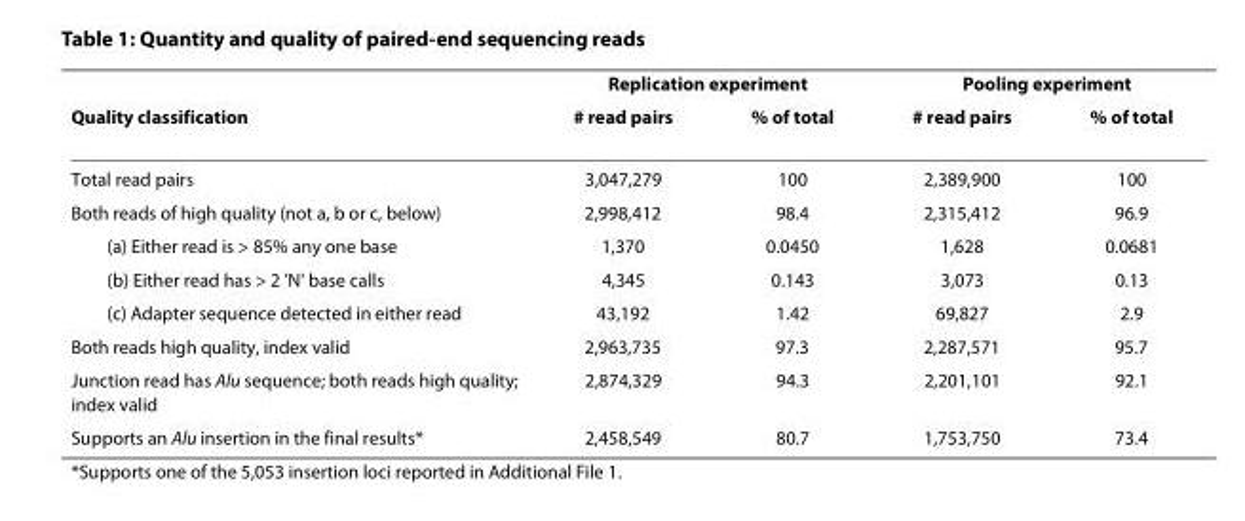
<table><thead><tr><td rowspan="2">Quality classification</td><td colspan="2">Replication experiment</td><td colspan="2">Pooling experiment</td></tr><tr><td># read pairs</td><td>% of total</td><td># read pairs</td><td>% of total</td></tr></thead><tbody><tr><td>Total read pairs</td><td>3,047,279</td><td>100</td><td>2,389,900</td><td>100</td></tr><tr><td>Both reads of high quality (not a, b or c, below)</td><td>2,998,412</td><td>98.4</td><td>2,315,412</td><td>96.9</td></tr><tr><td>(a) Either read is &gt; 85% any one base</td><td>1,370</td><td>0.0450</td><td>1,628</td><td>0.0681</td></tr><tr><td>(b) Either read has &gt; 2 &#x27;N&#x27; base calls</td><td>4,345</td><td>0.143</td><td>3,073</td><td>0.13</td></tr><tr><td>(c) Adapter sequence detected in either read</td><td>43,192</td><td>1.42</td><td>69,827</td><td>2.9</td></tr><tr><td>Both reads high quality, index valid</td><td>2,963,735</td><td>97.3</td><td>2,287,571</td><td>95.7</td></tr><tr><td>Junction read has Alu sequence; both reads high quality; index valid</td><td>2,874,329</td><td>94.3</td><td>2,201,101</td><td>92.1</td></tr><tr><td>Supports an Alu insertion in the final results*</td><td>2,458,549</td><td>80.7</td><td>1,753,750</td><td>73.4</td></tr></tbody></table>